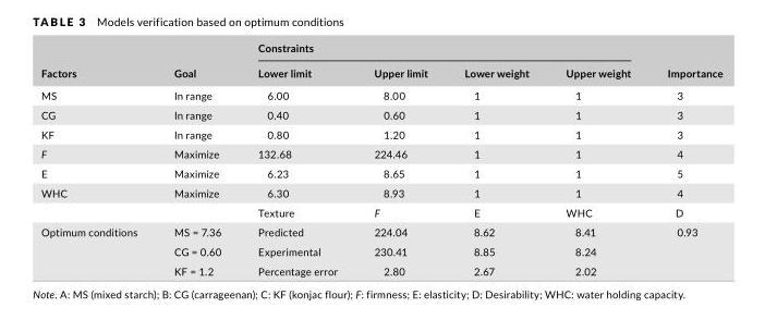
<table><thead><tr><td rowspan="2">Factors</td><td rowspan="2">Goal</td><td colspan="4">Constraints</td><td rowspan="2">Importance</td></tr><tr><td>Lower limit</td><td>Upper limit</td><td>Lower weight</td><td>Upper weight</td></tr></thead><tbody><tr><td>MS</td><td>In range</td><td>6.00</td><td>8.00</td><td>1</td><td>1</td><td>3</td></tr><tr><td>CG</td><td>In range</td><td>0.40</td><td>0.60</td><td>1</td><td>1</td><td>3</td></tr><tr><td>KF</td><td>In range</td><td>0.80</td><td>1.20</td><td>1</td><td>1</td><td>3</td></tr><tr><td>F</td><td>Maximize</td><td>132.68</td><td>224.46</td><td>1</td><td>1</td><td>4</td></tr><tr><td>E</td><td>Maximize</td><td>6.23</td><td>8.65</td><td>1</td><td>1</td><td>5</td></tr><tr><td rowspan="2">WHC</td><td>Maximize</td><td>6.30</td><td>8.93</td><td>1</td><td>1</td><td>4</td></tr><tr><td></td><td>Texture</td><td>F</td><td>E</td><td>WHC</td><td>D</td></tr><tr><td rowspan="3">Optimum conditions</td><td>MS = 7.36</td><td>Predicted</td><td>224.04</td><td>8.62</td><td>8.41</td><td>0.93</td></tr><tr><td>CG = 0.60</td><td>Experimental</td><td>230.41</td><td>8.85</td><td>8.24</td><td></td></tr><tr><td>KF = 1.2</td><td>Percentage error</td><td>2.80</td><td>2.67</td><td>2.02</td><td></td></tr></tbody></table>